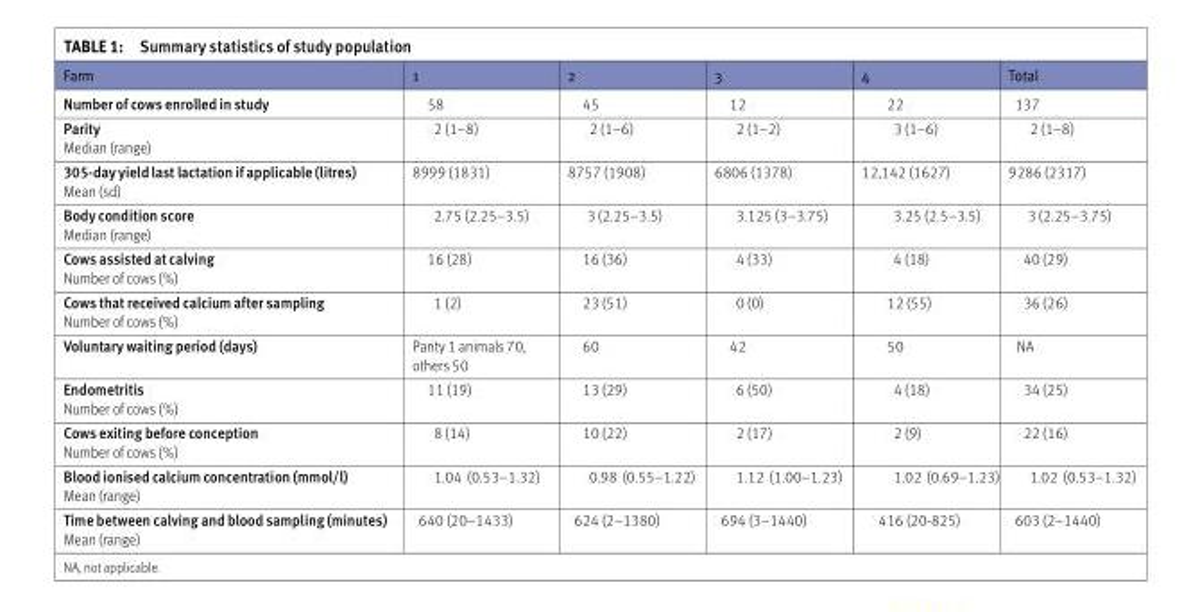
<table><thead><tr><td>Farm</td><td>1</td><td>2</td><td>3</td><td>4</td><td>Total</td></tr></thead><tbody><tr><td>Number of cows enrolled in study</td><td>58</td><td>45</td><td>12</td><td>22</td><td>137</td></tr><tr><td>Parity Median (range)</td><td>2 (1–8)</td><td>2 (1–6)</td><td>2 (1–2)</td><td>3 (1–6)</td><td>2 (1–8)</td></tr><tr><td>305-day yield last lactation if applicable (litres) Mean (sd)</td><td>8999 (1831)</td><td>8757 (1908)</td><td>6806 (1378)</td><td>12,142 (1627)</td><td>9286 (2317)</td></tr><tr><td>Body condition score Median (range)</td><td>2.75 (2.25–3.5)</td><td>3 (2.25–3.5)</td><td>3.125 (3–3.75)</td><td>3.25 (2.5–3.5)</td><td>3 (2.25–3.75)</td></tr><tr><td>Cows assisted at calving Number of cows (%)</td><td>16 (28)</td><td>16 (36)</td><td>4 (33)</td><td>4 (18)</td><td>40 (29)</td></tr><tr><td>Cows that received calcium after sampling Number of cows (%)</td><td>1 (2)</td><td>23 (51)</td><td>0 (0)</td><td>12 (55)</td><td>36 (26)</td></tr><tr><td>Voluntary waiting period (days)</td><td>Parity 1 animals 70, others 50</td><td>60</td><td>42</td><td>50</td><td>NA</td></tr><tr><td>Endometritis Number of cows (%)</td><td>11 (19)</td><td>13 (29)</td><td>6 (50)</td><td>4 (18)</td><td>34 (25)</td></tr><tr><td>Cows exiting before conception Number of cows (%)</td><td>8 (14)</td><td>10 (22)</td><td>2 (17)</td><td>2 (9)</td><td>22 (16)</td></tr><tr><td>Blood ionised calcium concentration (mmol/l) Mean (range)</td><td>1.04 (0.53–1.32)</td><td>0.98 (0.55–1.22)</td><td>1.12 (1.00–1.23)</td><td>1.02 (0.69–1.23)</td><td>1.02 (0.53–1.32)</td></tr><tr><td>Time between calving and blood sampling (minutes) Mean (range)</td><td>640 (20–1433)</td><td>624 (2–1380)</td><td>694 (3–1440)</td><td>416 (20-825)</td><td>603 (2–1440)</td></tr></tbody></table>